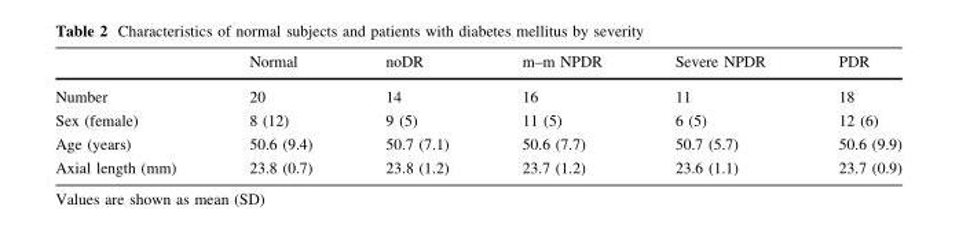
<table><thead><tr><td></td><td>Normal</td><td>noDR</td><td>m–m NPDR</td><td>Severe NPDR</td><td>PDR</td></tr></thead><tbody><tr><td>Number</td><td>20</td><td>14</td><td>16</td><td>11</td><td>18</td></tr><tr><td>Sex (female)</td><td>8 (12)</td><td>9 (5)</td><td>11 (5)</td><td>6 (5)</td><td>12 (6)</td></tr><tr><td>Age (years)</td><td>50.6 (9.4)</td><td>50.7 (7.1)</td><td>50.6 (7.7)</td><td>50.7 (5.7)</td><td>50.6 (9.9)</td></tr><tr><td>Axial length (mm)</td><td>23.8 (0.7)</td><td>23.8 (1.2)</td><td>23.7 (1.2)</td><td>23.6 (1.1)</td><td>23.7 (0.9)</td></tr></tbody></table>